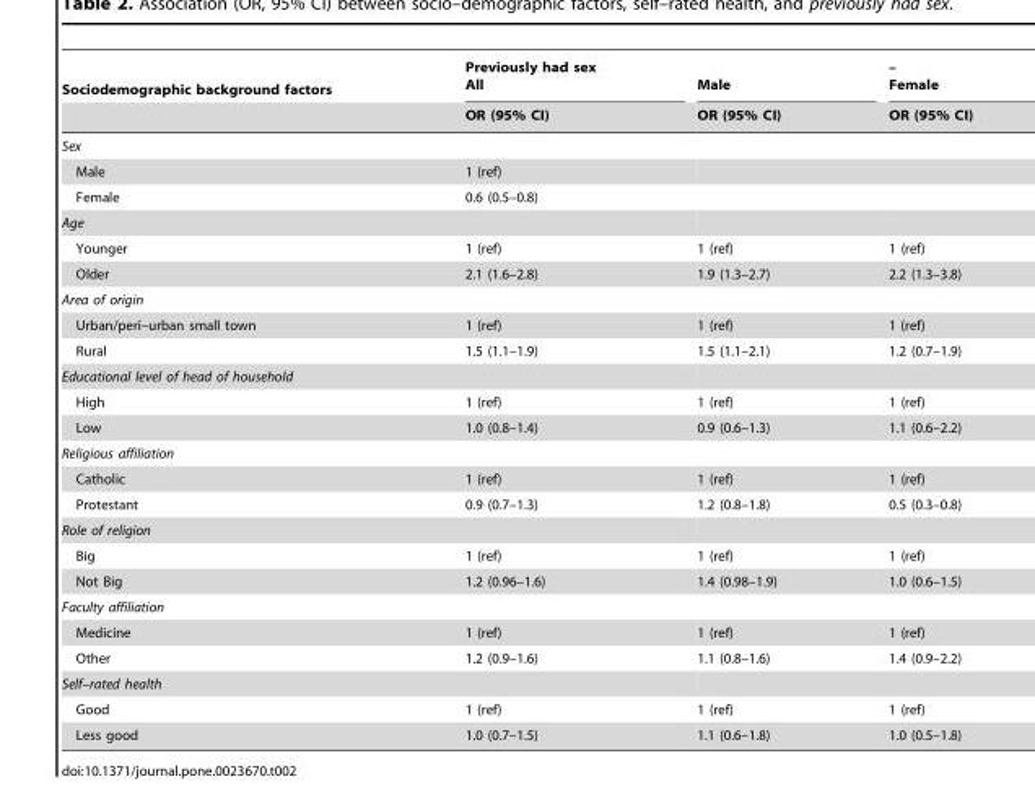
<table><thead><tr><td rowspan="2">Sociodemographic background factors</td><td rowspan="2">Previously had sex All OR (95% CI)</td><td rowspan="2">Male OR (95% CI)</td><td rowspan="2">– Female OR (95% CI)</td></tr><tr></tr></thead><tbody><tr><td colspan="4">Sex</td></tr><tr><td>Male</td><td>1 (ref)</td><td></td><td></td></tr><tr><td>Female</td><td>0.6 (0.5–0.8)</td><td></td><td></td></tr><tr><td colspan="4">Age</td></tr><tr><td>Younger</td><td>1 (ref)</td><td>1 (ref)</td><td>1 (ref)</td></tr><tr><td>Older</td><td>2.1 (1.6–2.8)</td><td>1.9 (1.3–2.7)</td><td>2.2 (1.3–3.8)</td></tr><tr><td colspan="4">Area of origin</td></tr><tr><td>Urban/peri–urban small town</td><td>1 (ref)</td><td>1 (ref)</td><td>1 (ref)</td></tr><tr><td>Rural</td><td>1.5 (1.1–1.9)</td><td>1.5 (1.1–2.1)</td><td>1.2 (0.7–1.9)</td></tr><tr><td colspan="4">Educational level of head of household</td></tr><tr><td>High</td><td>1 (ref)</td><td>1 (ref)</td><td>1 (ref)</td></tr><tr><td>Low</td><td>1.0 (0.8–1.4)</td><td>0.9 (0.6–1.3)</td><td>1.1 (0.6–2.2)</td></tr><tr><td colspan="4">Religious affiliation</td></tr><tr><td>Catholic</td><td>1 (ref)</td><td>1 (ref)</td><td>1 (ref)</td></tr><tr><td>Protestant</td><td>0.9 (0.7–1.3)</td><td>1.2 (0.8–1.8)</td><td>0.5 (0.3–0.8)</td></tr><tr><td colspan="4">Role of religion</td></tr><tr><td>Big</td><td>1 (ref)</td><td>1 (ref)</td><td>1 (ref)</td></tr><tr><td>Not Big</td><td>1.2 (0.96–1.6)</td><td>1.4 (0.98–1.9)</td><td>1.0 (0.6–1.5)</td></tr><tr><td colspan="4">Faculty affiliation</td></tr><tr><td>Medicine</td><td>1 (ref)</td><td>1 (ref)</td><td>1 (ref)</td></tr><tr><td>Other</td><td>1.2 (0.9–1.6)</td><td>1.1 (0.8–1.6)</td><td>1.4 (0.9–2.2)</td></tr><tr><td colspan="4">Self–rated health</td></tr><tr><td>Good</td><td>1 (ref)</td><td>1 (ref)</td><td>1 (ref)</td></tr><tr><td>Less good</td><td>1.0 (0.7–1.5)</td><td>1.1 (0.6–1.8)</td><td>1.0 (0.5–1.8)</td></tr></tbody></table>